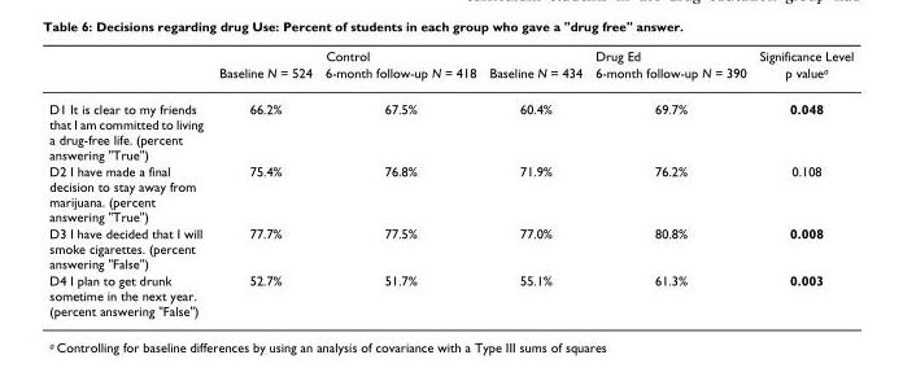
<table><thead><tr><td rowspan="2"></td><td colspan="2">Control</td><td colspan="2">Drug Ed</td><td rowspan="2">Significance Level p value<sup>a</sup></td></tr><tr><td>Baseline N = 524</td><td>6-month follow-up N = 418</td><td>Baseline N = 434</td><td>6-month follow-up N = 390</td></tr></thead><tbody><tr><td>D1 It is clear to my friends that I am committed to living a drug-free life. (percent answering &quot;True&quot;)</td><td>66.2%</td><td>67.5%</td><td>60.4%</td><td>69.7%</td><td>0.048</td></tr><tr><td>D2 I have made a final decision to stay away from marijuana. (percent answering &quot;True&quot;)</td><td>75.4%</td><td>76.8%</td><td>71.9%</td><td>76.2%</td><td>0.108</td></tr><tr><td>D3 I have decided that I will smoke cigarettes. (percent answering &quot;False&quot;)</td><td>77.7%</td><td>77.5%</td><td>77.0%</td><td>80.8%</td><td>0.008</td></tr><tr><td>D4 I plan to get drunk sometime in the next year. (percent answering &quot;False&quot;)</td><td>52.7%</td><td>51.7%</td><td>55.1%</td><td>61.3%</td><td>0.003</td></tr></tbody></table>